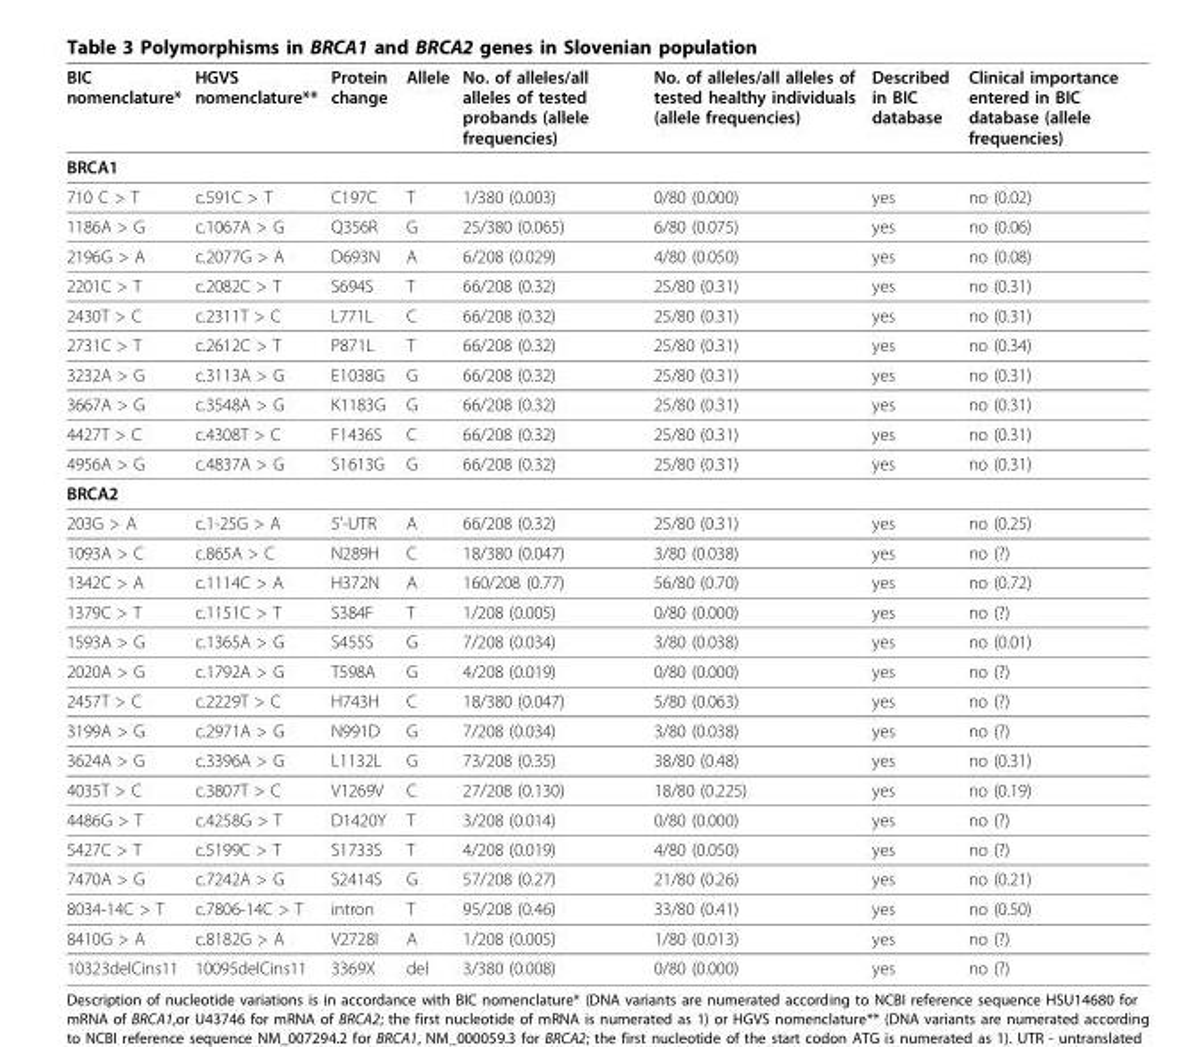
<table><thead><tr><td>BIC nomenclature*</td><td>HGVS nomenclature**</td><td>Protein change</td><td>Allele</td><td>No. of alleles/all alleles of tested probands (allele frequencies)</td><td>No. of alleles/all alleles of tested healthy individuals (allele frequencies)</td><td>Described in BIC database</td><td>Clinical importance entered in BIC database (allele frequencies)</td></tr></thead><tbody><tr><td colspan="8">BRCA1</td></tr><tr><td>710 C &gt; T</td><td>c.591C &gt; T</td><td>C197C</td><td>T</td><td>1/380 (0.003)</td><td>0/80 (0.000)</td><td>yes</td><td>no (0.02)</td></tr><tr><td>1186A &gt; G</td><td>c.1067A &gt; G</td><td>Q356R</td><td>G</td><td>25/380 (0.065)</td><td>6/80 (0.075)</td><td>yes</td><td>no (0.06)</td></tr><tr><td>2196G &gt; A</td><td>c.2077G &gt; A</td><td>D693N</td><td>A</td><td>6/208 (0.029)</td><td>4/80 (0.050)</td><td>yes</td><td>no (0.08)</td></tr><tr><td>2201C &gt; T</td><td>c.2082C &gt; T</td><td>S694S</td><td>T</td><td>66/208 (0.32)</td><td>25/80 (0.31)</td><td>yes</td><td>no (0.31)</td></tr><tr><td>2430T &gt; C</td><td>c.2311T &gt; C</td><td>L771L</td><td>C</td><td>66/208 (0.32)</td><td>25/80 (0.31)</td><td>yes</td><td>no (0.31)</td></tr><tr><td>2731C &gt; T</td><td>c.2612C &gt; T</td><td>P871L</td><td>T</td><td>66/208 (0.32)</td><td>25/80 (0.31)</td><td>yes</td><td>no (0.34)</td></tr><tr><td>3232A &gt; G</td><td>c.3113A &gt; G</td><td>E1038G</td><td>G</td><td>66/208 (0.32)</td><td>25/80 (0.31)</td><td>yes</td><td>no (0.31)</td></tr><tr><td>3667A &gt; G</td><td>c.3548A &gt; G</td><td>K1183G</td><td>G</td><td>66/208 (0.32)</td><td>25/80 (0.31)</td><td>yes</td><td>no (0.31)</td></tr><tr><td>4427T &gt; C</td><td>c.4308T &gt; C</td><td>F1436S</td><td>C</td><td>66/208 (0.32)</td><td>25/80 (0.31)</td><td>yes</td><td>no (0.31)</td></tr><tr><td>4956A &gt; G</td><td>c.4837A &gt; G</td><td>S1613G</td><td>G</td><td>66/208 (0.32)</td><td>25/80 (0.31)</td><td>yes</td><td>no (0.31)</td></tr><tr><td colspan="8">BRCA2</td></tr><tr><td>203G &gt; A</td><td>c.1-25G &gt; A</td><td>5’-UTR</td><td>A</td><td>66/208 (0.32)</td><td>25/80 (0.31)</td><td>yes</td><td>no (0.25)</td></tr><tr><td>1093A &gt; C</td><td>c.865A &gt; C</td><td>N289H</td><td>C</td><td>18/380 (0.047)</td><td>3/80 (0.038)</td><td>yes</td><td>no (?)</td></tr><tr><td>1342C &gt; A</td><td>c.1114C &gt; A</td><td>H372N</td><td>A</td><td>160/208 (0.77)</td><td>56/80 (0.70)</td><td>yes</td><td>no (0.72)</td></tr><tr><td>1379C &gt; T</td><td>c.1151C &gt; T</td><td>S384F</td><td>T</td><td>1/208 (0.005)</td><td>0/80 (0.000)</td><td>yes</td><td>no (?)</td></tr><tr><td>1593A &gt; G</td><td>c.1365A &gt; G</td><td>S455S</td><td>G</td><td>7/208 (0.034)</td><td>3/80 (0.038)</td><td>yes</td><td>no (0.01)</td></tr><tr><td>2020A &gt; G</td><td>c.1792A &gt; G</td><td>T598A</td><td>G</td><td>4/208 (0.019)</td><td>0/80 (0.000)</td><td>yes</td><td>no (?)</td></tr><tr><td>2457T &gt; C</td><td>c.2229T &gt; C</td><td>H743H</td><td>C</td><td>18/380 (0.047)</td><td>5/80 (0.063)</td><td>yes</td><td>no (?)</td></tr><tr><td>3199A &gt; G</td><td>c.2971A &gt; G</td><td>N991D</td><td>G</td><td>7/208 (0.034)</td><td>3/80 (0.038)</td><td>yes</td><td>no (?)</td></tr><tr><td>3624A &gt; G</td><td>c.3396A &gt; G</td><td>L1132L</td><td>G</td><td>73/208 (0.35)</td><td>38/80 (0.48)</td><td>yes</td><td>no (0.31)</td></tr><tr><td>4035T &gt; C</td><td>c.3807T &gt; C</td><td>V1269V</td><td>C</td><td>27/208 (0.130)</td><td>18/80 (0.225)</td><td>yes</td><td>no (0.19)</td></tr><tr><td>4486G &gt; T</td><td>c.4258G &gt; T</td><td>D1420Y</td><td>T</td><td>3/208 (0.014)</td><td>0/80 (0.000)</td><td>yes</td><td>no (?)</td></tr><tr><td>5427C &gt; T</td><td>c.5199C &gt; T</td><td>S1733S</td><td>T</td><td>4/208 (0.019)</td><td>4/80 (0.050)</td><td>yes</td><td>no (?)</td></tr><tr><td>7470A &gt; G</td><td>c.7242A &gt; G</td><td>S2414S</td><td>G</td><td>57/208 (0.27)</td><td>21/80 (0.26)</td><td>yes</td><td>no (0.21)</td></tr><tr><td>8034-14C &gt; T</td><td>c.7806-14C &gt; T</td><td>intron</td><td>T</td><td>95/208 (0.46)</td><td>33/80 (0.41)</td><td>yes</td><td>no (0.50)</td></tr><tr><td>8410G &gt; A</td><td>c.8182G &gt; A</td><td>V2728I</td><td>A</td><td>1/208 (0.005)</td><td>1/80 (0.013)</td><td>yes</td><td>no (?)</td></tr><tr><td>10323delCins11</td><td>10095delCins11</td><td>3369X</td><td>del</td><td>3/380 (0.008)</td><td>0/80 (0.000)</td><td>yes</td><td>no (?)</td></tr></tbody></table>